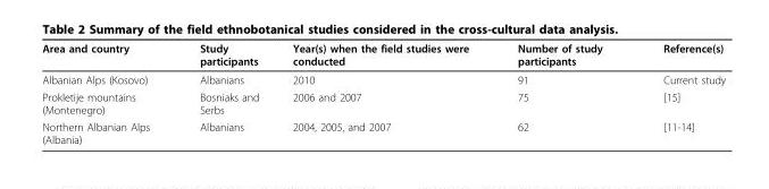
<table><thead><tr><td>Area and country</td><td>Study participants</td><td>Year(s) when the field studies were conducted</td><td>Number of study participants</td><td>Reference(s)</td></tr></thead><tbody><tr><td>Albanian Alps (Kosovo)</td><td>Albanians</td><td>2010</td><td>91</td><td>Current study</td></tr><tr><td>Prokletije mountains (Montenegro)</td><td>Bosniaks and Serbs</td><td>2006 and 2007</td><td>75</td><td>[15]</td></tr><tr><td>Northern Albanian Alps (Albania)</td><td>Albanians</td><td>2004, 2005, and 2007</td><td>62</td><td>[11-14]</td></tr></tbody></table>